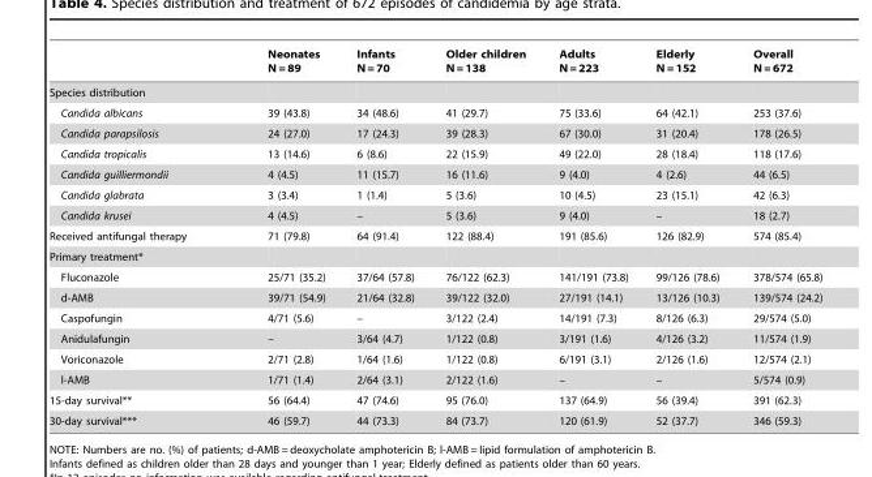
<table><thead><tr><td></td><td>Neonates N = 89</td><td>Infants N = 70</td><td>Older children N = 138</td><td>Adults N = 223</td><td>Elderly N = 152</td><td>Overall N = 672</td></tr></thead><tbody><tr><td colspan="7">Species distribution</td></tr><tr><td>Candida albicans</td><td>39 (43.8)</td><td>34 (48.6)</td><td>41 (29.7)</td><td>75 (33.6)</td><td>64 (42.1)</td><td>253 (37.6)</td></tr><tr><td>Candida parapsilosis</td><td>24 (27.0)</td><td>17 (24.3)</td><td>39 (28.3)</td><td>67 (30.0)</td><td>31 (20.4)</td><td>178 (26.5)</td></tr><tr><td>Candida tropicalis</td><td>13 (14.6)</td><td>6 (8.6)</td><td>22 (15.9)</td><td>49 (22.0)</td><td>28 (18.4)</td><td>118 (17.6)</td></tr><tr><td>Candida guilliermondii</td><td>4 (4.5)</td><td>11 (15.7)</td><td>16 (11.6)</td><td>9 (4.0)</td><td>4 (2.6)</td><td>44 (6.5)</td></tr><tr><td>Candida glabrata</td><td>3 (3.4)</td><td>1 (1.4)</td><td>5 (3.6)</td><td>10 (4.5)</td><td>23 (15.1)</td><td>42 (6.3)</td></tr><tr><td>Candida krusei</td><td>4 (4.5)</td><td>–</td><td>5 (3.6)</td><td>9 (4.0)</td><td>–</td><td>18 (2.7)</td></tr><tr><td>Received antifungal therapy</td><td>71 (79.8)</td><td>64 (91.4)</td><td>122 (88.4)</td><td>191 (85.6)</td><td>126 (82.9)</td><td>574 (85.4)</td></tr><tr><td colspan="7">Primary treatment*</td></tr><tr><td>Fluconazole</td><td>25/71 (35.2)</td><td>37/64 (57.8)</td><td>76/122 (62.3)</td><td>141/191 (73.8)</td><td>99/126 (78.6)</td><td>378/574 (65.8)</td></tr><tr><td>d-AMB</td><td>39/71 (54.9)</td><td>21/64 (32.8)</td><td>39/122 (32.0)</td><td>27/191 (14.1)</td><td>13/126 (10.3)</td><td>139/574 (24.2)</td></tr><tr><td>Caspofungin</td><td>4/71 (5.6)</td><td>–</td><td>3/122 (2.4)</td><td>14/191 (7.3)</td><td>8/126 (6.3)</td><td>29/574 (5.0)</td></tr><tr><td>Anidulafungin</td><td>–</td><td>3/64 (4.7)</td><td>1/122 (0.8)</td><td>3/191 (1.6)</td><td>4/126 (3.2)</td><td>11/574 (1.9)</td></tr><tr><td>Voriconazole</td><td>2/71 (2.8)</td><td>1/64 (1.6)</td><td>1/122 (0.8)</td><td>6/191 (3.1)</td><td>2/126 (1.6)</td><td>12/574 (2.1)</td></tr><tr><td>l-AMB</td><td>1/71 (1.4)</td><td>2/64 (3.1)</td><td>2/122 (1.6)</td><td>–</td><td>–</td><td>5/574 (0.9)</td></tr><tr><td>15-day survival**</td><td>56 (64.4)</td><td>47 (74.6)</td><td>95 (76.0)</td><td>137 (64.9)</td><td>56 (39.4)</td><td>391 (62.3)</td></tr><tr><td>30-day survival***</td><td>46 (59.7)</td><td>44 (73.3)</td><td>84 (73.7)</td><td>120 (61.9)</td><td>52 (37.7)</td><td>346 (59.3)</td></tr></tbody></table>